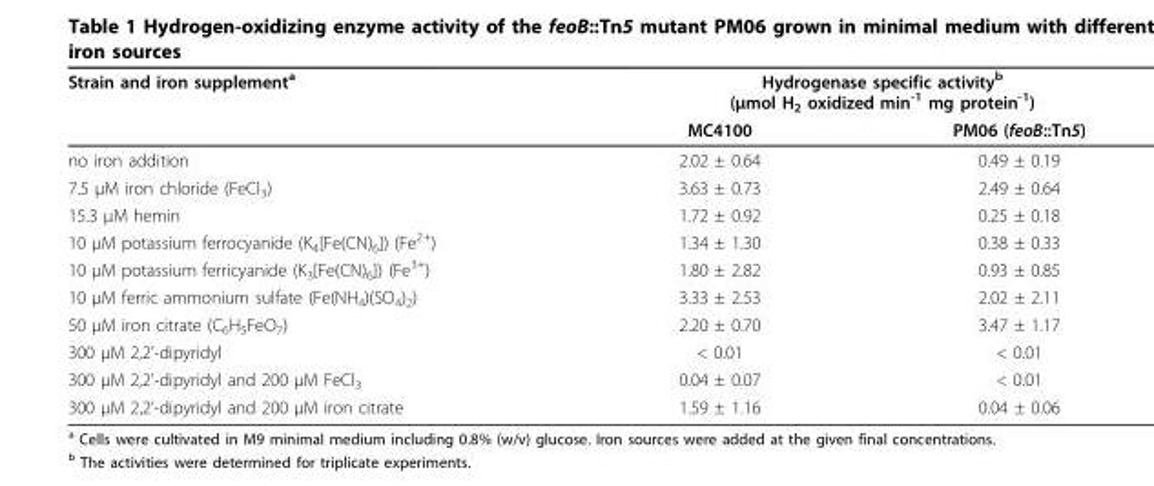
<table><thead><tr><td rowspan="2">Strain and iron supplement<sup>a</sup></td><td colspan="2">Hydrogenase specific activity<sup>b</sup> (μmol H<sub>2</sub> oxidized min<sup>-1</sup> mg protein<sup>-1</sup>)</td></tr><tr><td>MC4100</td><td>PM06 (feoB::Tn5)</td></tr></thead><tbody><tr><td>no iron addition</td><td>2.02 ± 0.64</td><td>0.49 ± 0.19</td></tr><tr><td>7.5 μM iron chloride (FeCl<sub>3</sub>)</td><td>3.63 ± 0.73</td><td>2.49 ± 0.64</td></tr><tr><td>15.3 μM hemin</td><td>1.72 ± 0.92</td><td>0.25 ± 0.18</td></tr><tr><td>10 μM potassium ferrocyanide (K<sub>4</sub>[Fe(CN)<sub>6</sub>]) (Fe<sup>2+</sup>)</td><td>1.34 ± 1.30</td><td>0.38 ± 0.33</td></tr><tr><td>10 μM potassium ferricyanide (K<sub>3</sub>[Fe(CN)<sub>6</sub>]) (Fe<sup>3+</sup>)</td><td>1.80 ± 2.82</td><td>0.93 ± 0.85</td></tr><tr><td>10 μM ferric ammonium sulfate (Fe(NH<sub>4</sub>)(SO<sub>4</sub>)<sub>2</sub>)</td><td>3.33 ± 2.53</td><td>2.02 ± 2.11</td></tr><tr><td>50 μM iron citrate (C<sub>6</sub>H<sub>5</sub>FeO<sub>7</sub>)</td><td>2.20 ± 0.70</td><td>3.47 ± 1.17</td></tr><tr><td>300 μM 2,2’-dipyridyl</td><td>&lt; 0.01</td><td>&lt; 0.01</td></tr><tr><td>300 μM 2,2’-dipyridyl and 200 μM FeCl<sub>3</sub></td><td>0.04 ± 0.07</td><td>&lt; 0.01</td></tr><tr><td>300 μM 2,2’-dipyridyl and 200 μM iron citrate</td><td>1.59 ± 1.16</td><td>0.04 ± 0.06</td></tr></tbody></table>